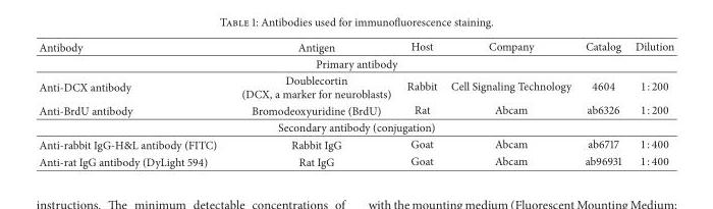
<table><thead><tr><td>Antibody</td><td>Antigen</td><td>Host</td><td>Company</td><td>Catalog</td><td>Dilution</td></tr></thead><tbody><tr><td colspan="6">Primary antibody</td></tr><tr><td>Anti-DCX antibody</td><td>Doublecortin (DCX, a marker for neuroblasts)</td><td>Rabbit</td><td>Cell Signaling Technology</td><td>4604</td><td>1 : 200</td></tr><tr><td>Anti-BrdU antibody</td><td>Bromodeoxyuridine (BrdU)</td><td>Rat</td><td>Abcam</td><td>ab6326</td><td>1 : 200</td></tr><tr><td colspan="6">Secondary antibody (conjugation)</td></tr><tr><td>Anti-rabbit IgG-H&amp;L antibody (FITC)</td><td>Rabbit IgG</td><td>Goat</td><td>Abcam</td><td>ab6717</td><td>1 : 400</td></tr><tr><td>Anti-rat IgG antibody (DyLight 594)</td><td>Rat IgG</td><td>Goat</td><td>Abcam</td><td>ab96931</td><td>1 : 400</td></tr></tbody></table>